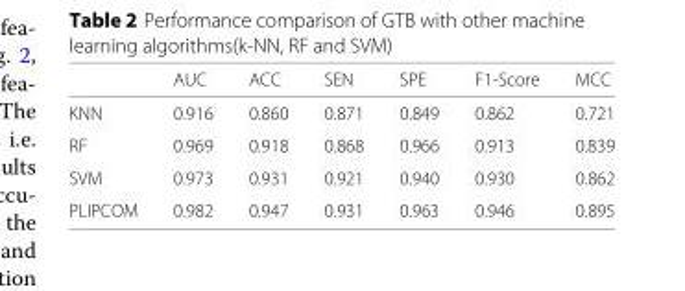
<table><thead><tr><td></td><td>AUC</td><td>ACC</td><td>SEN</td><td>SPE</td><td>F1-Score</td><td>MCC</td></tr></thead><tbody><tr><td>KNN</td><td>0.916</td><td>0.860</td><td>0.871</td><td>0.849</td><td>0.862</td><td>0.721</td></tr><tr><td>RF</td><td>0.969</td><td>0.918</td><td>0.868</td><td>0.966</td><td>0.913</td><td>0.839</td></tr><tr><td>SVM</td><td>0.973</td><td>0.931</td><td>0.921</td><td>0.940</td><td>0.930</td><td>0.862</td></tr><tr><td>PLIPCOM</td><td>0.982</td><td>0.947</td><td>0.931</td><td>0.963</td><td>0.946</td><td>0.895</td></tr></tbody></table>